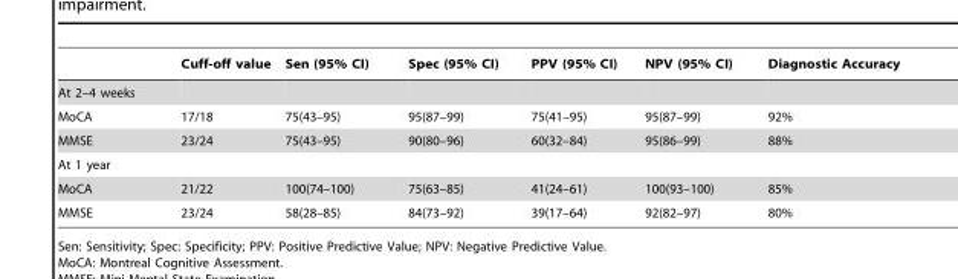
<table><thead><tr><td></td><td>Cuff-off value</td><td>Sen (95% CI)</td><td>Spec (95% CI)</td><td>PPV (95% CI)</td><td>NPV (95% CI)</td><td>Diagnostic Accuracy</td></tr></thead><tbody><tr><td colspan="7">At 2–4 weeks</td></tr><tr><td>MoCA</td><td>17/18</td><td>75(43–95)</td><td>95(87–99)</td><td>75(41–95)</td><td>95(87–99)</td><td>92%</td></tr><tr><td>MMSE</td><td>23/24</td><td>75(43–95)</td><td>90(80–96)</td><td>60(32–84)</td><td>95(86–99)</td><td>88%</td></tr><tr><td colspan="7">At 1 year</td></tr><tr><td>MoCA</td><td>21/22</td><td>100(74–100)</td><td>75(63–85)</td><td>41(24–61)</td><td>100(93–100)</td><td>85%</td></tr><tr><td>MMSE</td><td>23/24</td><td>58(28–85)</td><td>84(73–92)</td><td>39(17–64)</td><td>92(82–97)</td><td>80%</td></tr></tbody></table>